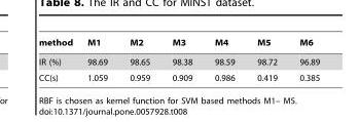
<table><thead><tr><td>method</td><td>M1</td><td>M2</td><td>M3</td><td>M4</td><td>M5</td><td>M6</td></tr></thead><tbody><tr><td>IR (%)</td><td>98.69</td><td>98.65</td><td>98.38</td><td>98.59</td><td>98.72</td><td>96.89</td></tr><tr><td>CC(s)</td><td>1.059</td><td>0.959</td><td>0.909</td><td>0.986</td><td>0.419</td><td>0.385</td></tr></tbody></table>